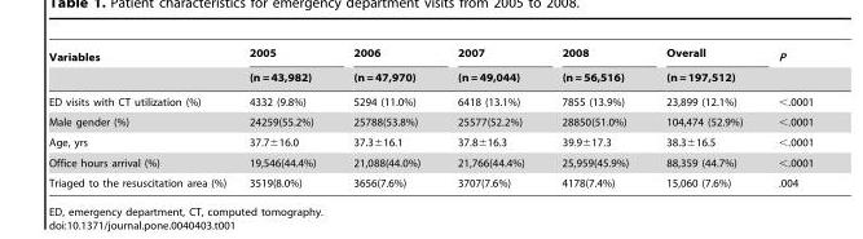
<table><thead><tr><td rowspan="2">Variables</td><td rowspan="2">2005 (n = 43,982)</td><td rowspan="2">2006 (n = 47,970)</td><td rowspan="2">2007 (n = 49,044)</td><td rowspan="2">2008 (n = 56,516)</td><td rowspan="2">Overall (n = 197,512)</td><td rowspan="2">P</td></tr><tr></tr></thead><tbody><tr><td>ED visits with CT utilization (%)</td><td>4332 (9.8%)</td><td>5294 (11.0%)</td><td>6418 (13.1%)</td><td>7855 (13.9%)</td><td>23,899 (12.1%)</td><td>&lt;.0001</td></tr><tr><td>Male gender (%)</td><td>24259(55.2%)</td><td>25788(53.8%)</td><td>25577(52.2%)</td><td>28850(51.0%)</td><td>104,474 (52.9%)</td><td>&lt;.0001</td></tr><tr><td>Age, yrs</td><td>37.7±16.0</td><td>37.3±16.1</td><td>37.8±16.3</td><td>39.9±17.3</td><td>38.3±16.5</td><td>&lt;.0001</td></tr><tr><td>Office hours arrival (%)</td><td>19,546(44.4%)</td><td>21,088(44.0%)</td><td>21,766(44.4%)</td><td>25,959(45.9%)</td><td>88,359 (44.7%)</td><td>&lt;.0001</td></tr><tr><td>Triaged to the resuscitation area (%)</td><td>3519(8.0%)</td><td>3656(7.6%)</td><td>3707(7.6%)</td><td>4178(7.4%)</td><td>15,060 (7.6%)</td><td>.004</td></tr></tbody></table>